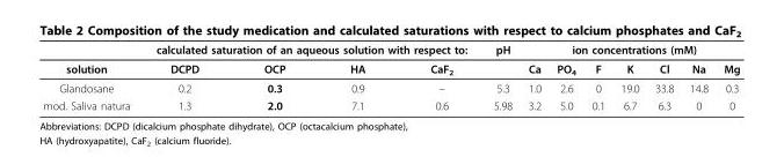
<table><thead><tr><td rowspan="2">solution</td><td colspan="4">calculated saturation of an aqueous solution with respect to:</td><td rowspan="2">pH</td><td colspan="7">ion concentrations (mM)</td></tr><tr><td>DCPD</td><td>OCP</td><td>HA</td><td>CaF<sub>2</sub></td><td>Ca</td><td>PO<sub>4</sub></td><td>F</td><td>K</td><td>Cl</td><td>Na</td><td>Mg</td></tr></thead><tbody><tr><td>Glandosane</td><td>0.2</td><td>0.3</td><td>0.9</td><td>–</td><td>5.3</td><td>1.0</td><td>2.6</td><td>0</td><td>19.0</td><td>33.8</td><td>14.8</td><td>0.3</td></tr><tr><td>mod. Saliva natura</td><td>1.3</td><td>2.0</td><td>7.1</td><td>0.6</td><td>5.98</td><td>3.2</td><td>5.0</td><td>0.1</td><td>6.7</td><td>6.3</td><td>0</td><td>0</td></tr></tbody></table>